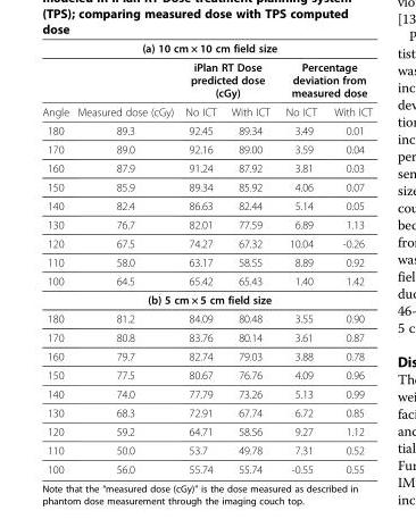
<table><thead><tr><td colspan="6">(a) 10 cm × 10 cm field size</td></tr><tr><td rowspan="2">Angle</td><td rowspan="2">Measured dose (cGy)</td><td colspan="2">iPlan RT Dose predicted dose (cGy)</td><td colspan="2">Percentage deviation from measured dose</td></tr><tr><td>No ICT</td><td>With ICT</td><td>No ICT</td><td>With ICT</td></tr></thead><tbody><tr><td>180</td><td>89.3</td><td>92.45</td><td>89.34</td><td>3.49</td><td>0.01</td></tr><tr><td>170</td><td>89.0</td><td>92.16</td><td>89.00</td><td>3.59</td><td>0.04</td></tr><tr><td>160</td><td>87.9</td><td>91.24</td><td>87.92</td><td>3.81</td><td>0.03</td></tr><tr><td>150</td><td>85.9</td><td>89.34</td><td>85.92</td><td>4.06</td><td>0.07</td></tr><tr><td>140</td><td>82.4</td><td>86.63</td><td>82.44</td><td>5.14</td><td>0.05</td></tr><tr><td>130</td><td>76.7</td><td>82.01</td><td>77.59</td><td>6.89</td><td>1.13</td></tr><tr><td>120</td><td>67.5</td><td>74.27</td><td>67.32</td><td>10.04</td><td>-0.26</td></tr><tr><td>110</td><td>58.0</td><td>63.17</td><td>58.55</td><td>8.89</td><td>0.92</td></tr><tr><td>100</td><td>64.5</td><td>65.42</td><td>65.43</td><td>1.40</td><td>1.42</td></tr><tr><td colspan="6">(b) 5 cm × 5 cm field size</td></tr><tr><td>180</td><td>81.2</td><td>84.09</td><td>80.48</td><td>3.55</td><td>0.90</td></tr><tr><td>170</td><td>80.8</td><td>83.76</td><td>80.14</td><td>3.61</td><td>0.87</td></tr><tr><td>160</td><td>79.7</td><td>82.74</td><td>79.03</td><td>3.88</td><td>0.78</td></tr><tr><td>150</td><td>77.5</td><td>80.67</td><td>76.76</td><td>4.09</td><td>0.96</td></tr><tr><td>140</td><td>74.0</td><td>77.79</td><td>73.26</td><td>5.13</td><td>0.99</td></tr><tr><td>130</td><td>68.3</td><td>72.91</td><td>67.74</td><td>6.72</td><td>0.85</td></tr><tr><td>120</td><td>59.2</td><td>64.71</td><td>58.56</td><td>9.27</td><td>1.12</td></tr><tr><td>110</td><td>50.0</td><td>53.7</td><td>49.78</td><td>7.31</td><td>0.52</td></tr><tr><td>100</td><td>56.0</td><td>55.74</td><td>55.74</td><td>-0.55</td><td>0.55</td></tr></tbody></table>